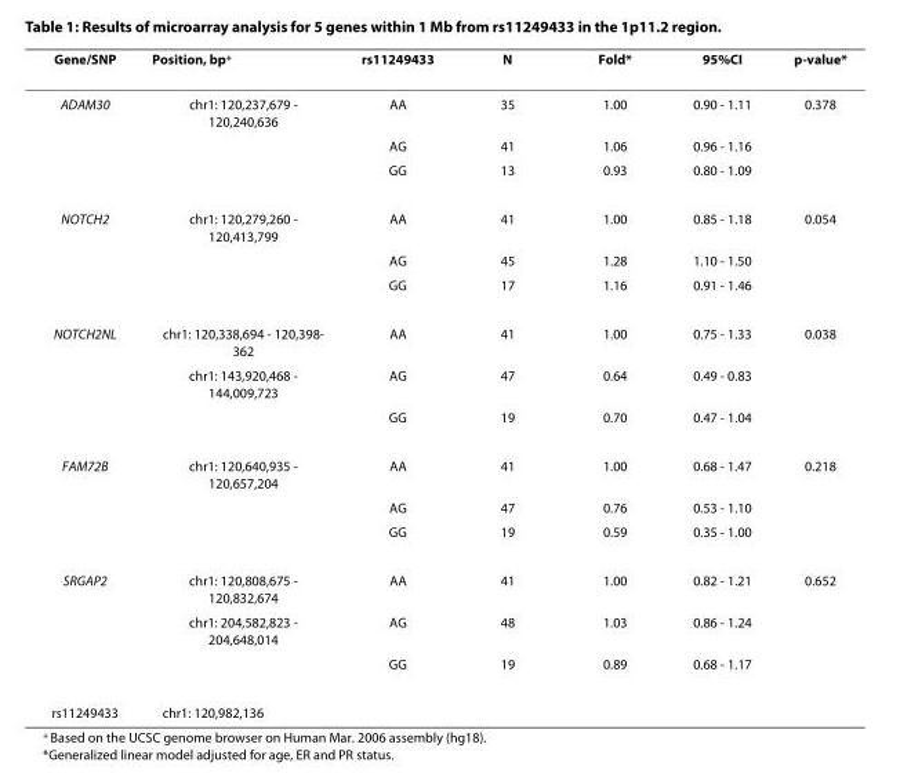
<table><thead><tr><td>Gene/SNP</td><td>Position, bp<sup>+</sup></td><td>rs11249433</td><td>N</td><td>Fold*</td><td>95%CI</td><td>p-value*</td></tr></thead><tbody><tr><td rowspan="3">ADAM30</td><td>chr1: 120,237,679 - 120,240,636</td><td>AA</td><td>35</td><td>1.00</td><td>0.90 - 1.11</td><td>0.378</td></tr><tr><td></td><td>AG</td><td>41</td><td>1.06</td><td>0.96 - 1.16</td><td></td></tr><tr><td></td><td>GG</td><td>13</td><td>0.93</td><td>0.80 - 1.09</td><td></td></tr><tr><td rowspan="3">NOTCH2</td><td>chr1: 120,279,260 - 120,413,799</td><td>AA</td><td>41</td><td>1.00</td><td>0.85 - 1.18</td><td>0.054</td></tr><tr><td></td><td>AG</td><td>45</td><td>1.28</td><td>1.10 - 1.50</td><td></td></tr><tr><td></td><td>GG</td><td>17</td><td>1.16</td><td>0.91 - 1.46</td><td></td></tr><tr><td rowspan="3">NOTCH2NL</td><td>chr1: 120,338,694 - 120,398- 362</td><td>AA</td><td>41</td><td>1.00</td><td>0.75 - 1.33</td><td>0.038</td></tr><tr><td>chr1: 143,920,468 - 144,009,723</td><td>AG</td><td>47</td><td>0.64</td><td>0.49 - 0.83</td><td></td></tr><tr><td></td><td>GG</td><td>19</td><td>0.70</td><td>0.47 - 1.04</td><td></td></tr><tr><td rowspan="3">FAM72B</td><td>chr1: 120,640,935 - 120,657,204</td><td>AA</td><td>41</td><td>1.00</td><td>0.68 - 1.47</td><td>0.218</td></tr><tr><td></td><td>AG</td><td>47</td><td>0.76</td><td>0.53 - 1.10</td><td></td></tr><tr><td></td><td>GG</td><td>19</td><td>0.59</td><td>0.35 - 1.00</td><td></td></tr><tr><td rowspan="3">SRGAP2</td><td>chr1: 120,808,675 - 120,832,674</td><td>AA</td><td>41</td><td>1.00</td><td>0.82 - 1.21</td><td>0.652</td></tr><tr><td>chr1: 204,582,823 - 204,648,014</td><td>AG</td><td>48</td><td>1.03</td><td>0.86 - 1.24</td><td></td></tr><tr><td></td><td>GG</td><td>19</td><td>0.89</td><td>0.68 - 1.17</td><td></td></tr><tr><td>rs11249433</td><td>chr1: 120,982,136</td><td></td><td></td><td></td><td></td><td></td></tr></tbody></table>